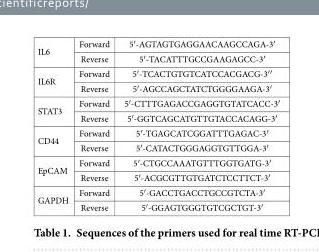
<table><tbody><tr><td rowspan="2">IL6</td><td>Forward</td><td>5′ -AGTAGTGAGGAACAAGCCAGA-3′</td></tr><tr><td>Reverse</td><td>5′ -TACATTTGCCGAAGAGCC-3′</td></tr><tr><td rowspan="2">IL6R</td><td>Forward</td><td>5′ -TCACTGTGTCATCCACGACG-3′ ′</td></tr><tr><td>Reverse</td><td>5′ -AGCCAGCTATCTGGGGAAGA-3′</td></tr><tr><td rowspan="2">STAT3</td><td>Forward</td><td>5′ -CTTTGAGACCGAGGTGTATCACC-3′</td></tr><tr><td>Reverse</td><td>5′ -GGTCAGCATGTTGTACCACAGG-3′</td></tr><tr><td rowspan="2">CD44</td><td>Forward</td><td>5′ -TGAGCATCGGATTTGAGAC-3′</td></tr><tr><td>Reverse</td><td>5′ -CATACTGGGAGGTGTTGGA-3′</td></tr><tr><td rowspan="2">EpCAM</td><td>Forward</td><td>5′ -CTGCCAAATGTTTGGTGATG-3′</td></tr><tr><td>Reverse</td><td>5′ -ACGCGTTGTGATCTCCTTCT-3′</td></tr><tr><td rowspan="2">GAPDH</td><td>Forward</td><td>5′ -GACCTGACCTGCCGTCTA-3′</td></tr><tr><td>Reverse</td><td>5′ -GGAGTGGGTGTCGCTGT-3′</td></tr></tbody></table>